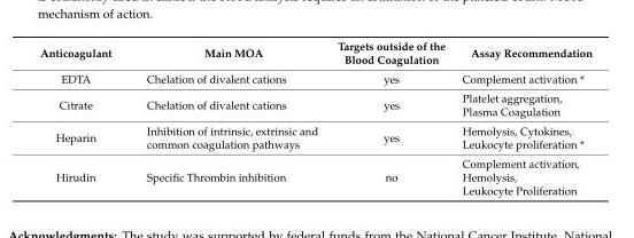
<table><thead><tr><td>Anticoagulant</td><td>Main MOA</td><td>Targets outside of the Blood Coagulation</td><td>Assay Recommendation</td></tr></thead><tbody><tr><td>EDTA</td><td>Chelation of divalent cations</td><td>yes</td><td>Complement activation *</td></tr><tr><td>Citrate</td><td>Chelation of divalent cations</td><td>yes</td><td>Platelet aggregation, Plasma Coagulation</td></tr><tr><td>Heparin</td><td>Inhibition of intrinsic, extrinsic and common coagulation pathways</td><td>yes</td><td>Hemolysis, Cytokines, Leukocyte proliferation *</td></tr><tr><td>Hirudin</td><td>Specific Thrombin inhibition</td><td>no</td><td>Complement activation, Hemolysis, Leukocyte Proliferation</td></tr></tbody></table>